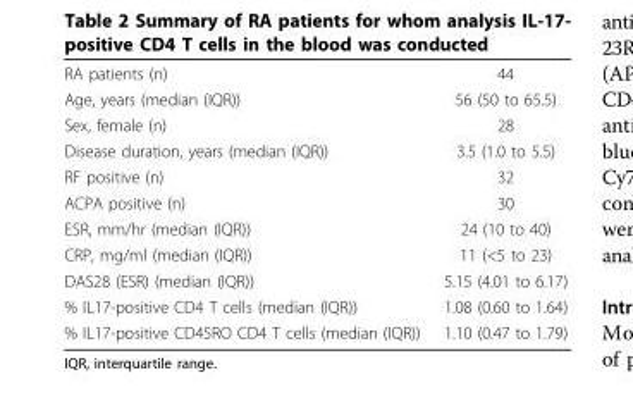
<table><tbody><tr><td>RA patients (n)</td><td>44</td></tr><tr><td>Age, years (median (IQR))</td><td>56 (50 to 65.5)</td></tr><tr><td>Sex, female (n)</td><td>28</td></tr><tr><td>Disease duration, years (median (IQR))</td><td>3.5 (1.0 to 5.5)</td></tr><tr><td>RF positive (n)</td><td>32</td></tr><tr><td>ACPA positive (n)</td><td>30</td></tr><tr><td>ESR, mm/hr (median (IQR))</td><td>24 (10 to 40)</td></tr><tr><td>CRP, mg/ml (median (IQR))</td><td>11 (&lt;5 to 23)</td></tr><tr><td>DAS28 (ESR) (median (IQR))</td><td>5.15 (4.01 to 6.17)</td></tr><tr><td>% IL17-positive CD4 T cells (median (IQR))</td><td>1.08 (0.60 to 1.64)</td></tr><tr><td>% IL17-positive CD45RO CD4 T cells (median (IQR))</td><td>1.10 (0.47 to 1.79)</td></tr></tbody></table>